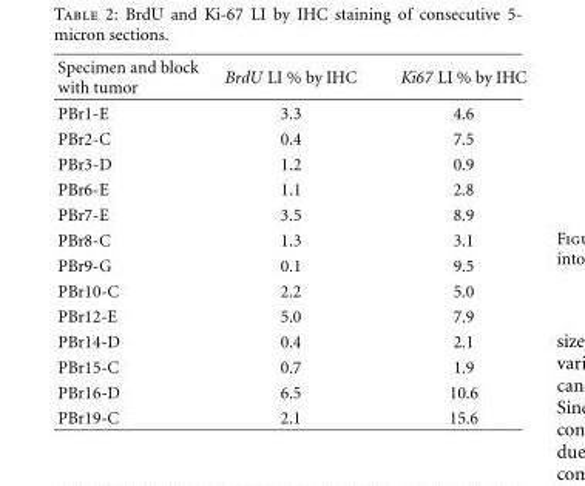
<table><thead><tr><td>Specimen and block with tumor</td><td>BrdU LI % by IHC</td><td>Ki67 LI % by IHC</td></tr></thead><tbody><tr><td>PBr1-E</td><td>3.3</td><td>4.6</td></tr><tr><td>PBr2-C</td><td>0.4</td><td>7.5</td></tr><tr><td>PBr3-D</td><td>1.2</td><td>0.9</td></tr><tr><td>PBr6-E</td><td>1.1</td><td>2.8</td></tr><tr><td>PBr7-E</td><td>3.5</td><td>8.9</td></tr><tr><td>PBr8-C</td><td>1.3</td><td>3.1</td></tr><tr><td>PBr9-G</td><td>0.1</td><td>9.5</td></tr><tr><td>PBr10-C</td><td>2.2</td><td>5.0</td></tr><tr><td>PBr12-E</td><td>5.0</td><td>7.9</td></tr><tr><td>PBr14-D</td><td>0.4</td><td>2.1</td></tr><tr><td>PBr15-C</td><td>0.7</td><td>1.9</td></tr><tr><td>PBr16-D</td><td>6.5</td><td>10.6</td></tr><tr><td>PBr19-C</td><td>2.1</td><td>15.6</td></tr></tbody></table>